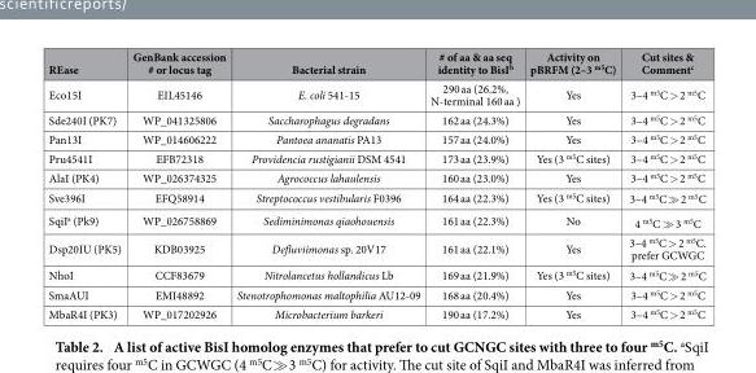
<table><thead><tr><td>REase</td><td>GenBank accession # or locus tag</td><td>Bacterial strain</td><td># of aa &amp; aa seq identity to BisI<sup>b</sup></td><td>Activity on pBRFM (2–3 <sup>m5</sup>C)</td><td>Cut sites &amp; Comment<sup>c</sup></td></tr></thead><tbody><tr><td>Eco15I</td><td>EIL45146</td><td>E. coli 541-15</td><td>290 aa (26.2%, N-terminal 160 aa )</td><td>Yes</td><td>3–4 <sup>m5</sup>C &gt; 2 <sup>m5</sup>C</td></tr><tr><td>Sde240I (PK7)</td><td>WP_041325806</td><td>Saccharophagus degradans</td><td>162 aa (24.3%)</td><td>Yes</td><td>3–4 <sup>m5</sup>C &gt; 2 <sup>m5</sup>C</td></tr><tr><td>Pan13I</td><td>WP_014606222</td><td>Pantoea ananatis PA13</td><td>157 aa (24.0%)</td><td>Yes</td><td>3–4 <sup>m5</sup>C &gt; 2 <sup>m5</sup>C</td></tr><tr><td>Pru4541I</td><td>EFB72318</td><td>Providencia rustigianii DSM 4541</td><td>173 aa (23.9%)</td><td>Yes (3 <sup>m5</sup>C sites)</td><td>3–4 <sup>m5</sup>C &gt; 2 <sup>m5</sup>C</td></tr><tr><td>AlaI (PK4)</td><td>WP_026374325</td><td>Agrococcus lahaulensis</td><td>160 aa (23.0%)</td><td>Yes</td><td>3–4 <sup>m5</sup>C &gt; 2 <sup>m5</sup>C</td></tr><tr><td>Sve396I</td><td>EFQ58914</td><td>Streptococcus vestibularis F0396</td><td>164 aa (22.3%)</td><td>Yes (3 <sup>m5</sup>C sites)</td><td>3–4 m5C  2 m5C</td></tr><tr><td>SqiI<sup>a</sup> (Pk9)</td><td>WP_026758869</td><td>Sediminimonas qiaohouensis</td><td>161 aa (22.3%)</td><td>No</td><td>4 m5C  3 m5C</td></tr><tr><td>Dsp20IU (PK5)</td><td>KDB03925</td><td>Defluviimonas sp. 20V17</td><td>161 aa (22.1%)</td><td>Yes</td><td>3–4 <sup>m5</sup>C &gt; 2 <sup>m5</sup>C. prefer GCWGC</td></tr><tr><td>NhoI</td><td>CCF83679</td><td>Nitrolancetus hollandicus Lb</td><td>169 aa (21.9%)</td><td>Yes (3 <sup>m5</sup>C sites)</td><td>3–4 m5C  2 m5C</td></tr><tr><td>SmaAUI</td><td>EMI48892</td><td>Stenotrophomonas maltophilia AU12-09</td><td>168 aa (20.4%)</td><td>Yes</td><td>3–4 <sup>m5</sup>C &gt; 2 <sup>m5</sup>C</td></tr><tr><td>MbaR4I (PK3)</td><td>WP_017202926</td><td>Microbacterium barkeri</td><td>190 aa (17.2%)</td><td>Yes</td><td>3–4 <sup>m5</sup>C &gt; 2 <sup>m5</sup>C</td></tr></tbody></table>